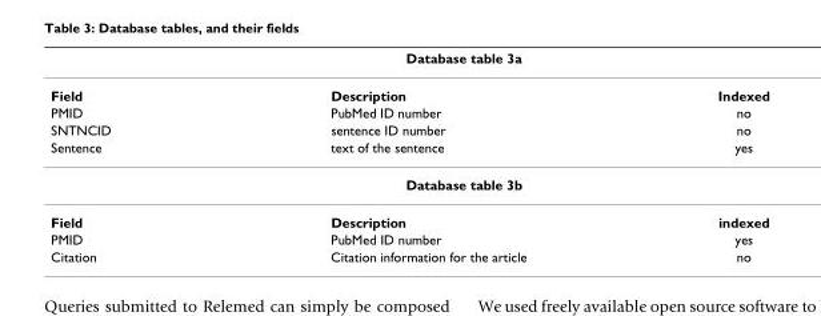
<table><thead><tr><td colspan="3">Database table 3a</td></tr><tr><td>Field</td><td>Description</td><td>Indexed</td></tr></thead><tbody><tr><td>PMID</td><td>PubMed ID number</td><td>no</td></tr><tr><td>SNTNCID</td><td>sentence ID number</td><td>no</td></tr><tr><td>Sentence</td><td>text of the sentence</td><td>yes</td></tr><tr><td colspan="3">Database table 3b</td></tr><tr><td>Field</td><td>Description</td><td>indexed</td></tr><tr><td>PMID</td><td>PubMed ID number</td><td>yes</td></tr><tr><td>Citation</td><td>Citation information for the article</td><td>no</td></tr></tbody></table>